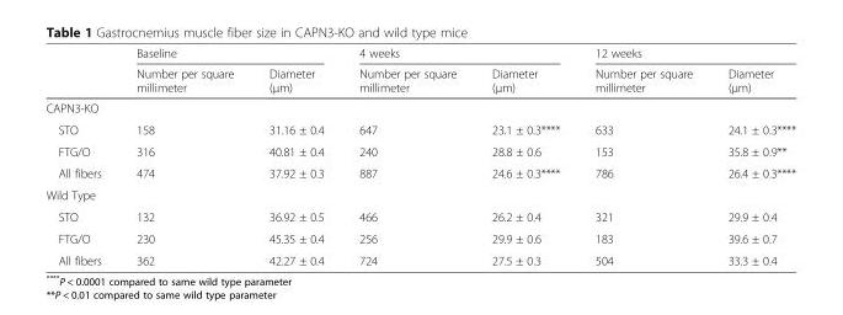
<table><thead><tr><td rowspan="2"></td><td colspan="2">Baseline</td><td colspan="2">4 weeks</td><td colspan="2">12 weeks</td></tr><tr><td>Number per square millimeter</td><td>Diameter (μm)</td><td>Number per square millimeter</td><td>Diameter (μm)</td><td>Number per square millimeter</td><td>Diameter (μm)</td></tr></thead><tbody><tr><td colspan="7">CAPN3-KO</td></tr><tr><td>STO</td><td>158</td><td>31.16 ± 0.4</td><td>647</td><td>23.1 ± 0.3****</td><td>633</td><td>24.1 ± 0.3****</td></tr><tr><td>FTG/O</td><td>316</td><td>40.81 ± 0.4</td><td>240</td><td>28.8 ± 0.6</td><td>153</td><td>35.8 ± 0.9**</td></tr><tr><td>All fibers</td><td>474</td><td>37.92 ± 0.3</td><td>887</td><td>24.6 ± 0.3****</td><td>786</td><td>26.4 ± 0.3****</td></tr><tr><td colspan="7">Wild Type</td></tr><tr><td>STO</td><td>132</td><td>36.92 ± 0.5</td><td>466</td><td>26.2 ± 0.4</td><td>321</td><td>29.9 ± 0.4</td></tr><tr><td>FTG/O</td><td>230</td><td>45.35 ± 0.4</td><td>256</td><td>29.9 ± 0.6</td><td>183</td><td>39.6 ± 0.7</td></tr><tr><td>All fibers</td><td>362</td><td>42.27 ± 0.4</td><td>724</td><td>27.5 ± 0.3</td><td>504</td><td>33.3 ± 0.4</td></tr></tbody></table>